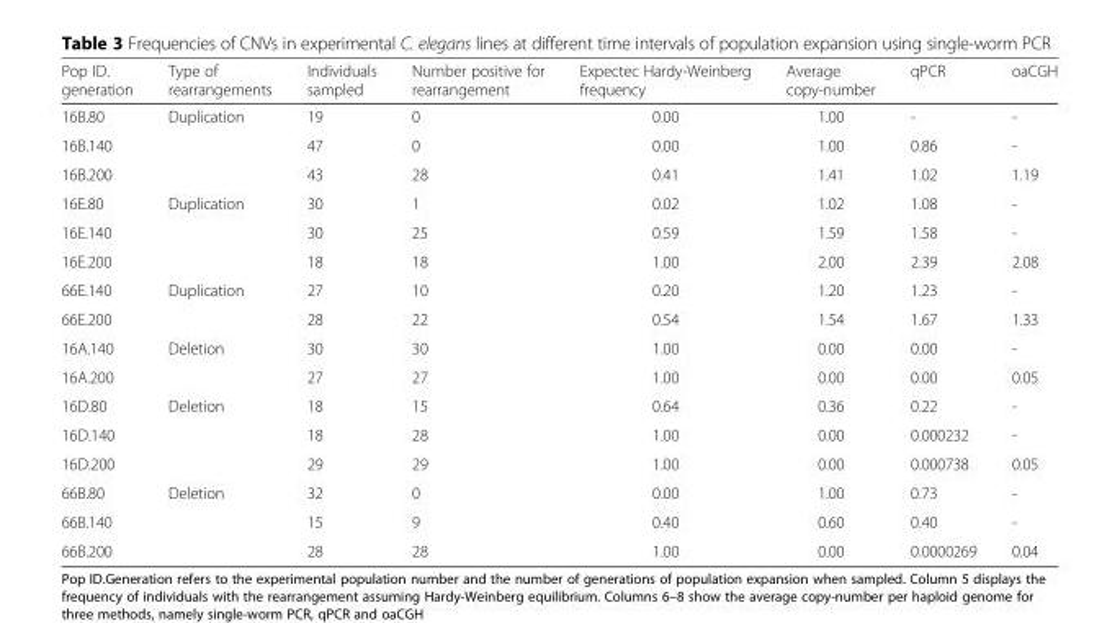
<table><thead><tr><td>Pop ID. generation</td><td>Type of rearrangements</td><td>Individuals sampled</td><td>Number positive for rearrangement</td><td>Expectec Hardy-Weinberg frequency</td><td>Average copy-number</td><td>qPCR</td><td>oaCGH</td></tr></thead><tbody><tr><td>16B.80</td><td rowspan="3">Duplication</td><td>19</td><td>0</td><td>0.00</td><td>1.00</td><td>-</td><td>-</td></tr><tr><td>16B.140</td><td>47</td><td>0</td><td>0.00</td><td>1.00</td><td>0.86</td><td>-</td></tr><tr><td>16B.200</td><td>43</td><td>28</td><td>0.41</td><td>1.41</td><td>1.02</td><td>1.19</td></tr><tr><td>16E.80</td><td rowspan="3">Duplication</td><td>30</td><td>1</td><td>0.02</td><td>1.02</td><td>1.08</td><td>-</td></tr><tr><td>16E.140</td><td>30</td><td>25</td><td>0.59</td><td>1.59</td><td>1.58</td><td>-</td></tr><tr><td>16E.200</td><td>18</td><td>18</td><td>1.00</td><td>2.00</td><td>2.39</td><td>2.08</td></tr><tr><td>66E.140</td><td rowspan="2">Duplication</td><td>27</td><td>10</td><td>0.20</td><td>1.20</td><td>1.23</td><td>-</td></tr><tr><td>66E.200</td><td>28</td><td>22</td><td>0.54</td><td>1.54</td><td>1.67</td><td>1.33</td></tr><tr><td>16A.140</td><td rowspan="2">Deletion</td><td>30</td><td>30</td><td>1.00</td><td>0.00</td><td>0.00</td><td>-</td></tr><tr><td>16A.200</td><td>27</td><td>27</td><td>1.00</td><td>0.00</td><td>0.00</td><td>0.05</td></tr><tr><td>16D.80</td><td rowspan="3">Deletion</td><td>18</td><td>15</td><td>0.64</td><td>0.36</td><td>0.22</td><td>-</td></tr><tr><td>16D.140</td><td>18</td><td>28</td><td>1.00</td><td>0.00</td><td>0.000232</td><td>-</td></tr><tr><td>16D.200</td><td>29</td><td>29</td><td>1.00</td><td>0.00</td><td>0.000738</td><td>0.05</td></tr><tr><td>66B.80</td><td rowspan="3">Deletion</td><td>32</td><td>0</td><td>0.00</td><td>1.00</td><td>0.73</td><td>-</td></tr><tr><td>66B.140</td><td>15</td><td>9</td><td>0.40</td><td>0.60</td><td>0.40</td><td>-</td></tr><tr><td>66B.200</td><td>28</td><td>28</td><td>1.00</td><td>0.00</td><td>0.0000269</td><td>0.04</td></tr></tbody></table>